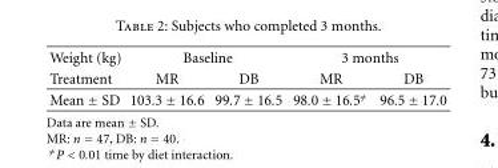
<table><thead><tr><td rowspan="2">Weight (kg) Treatment</td><td colspan="2">Baseline</td><td colspan="2">3 months</td></tr><tr><td>MR</td><td>DB</td><td>MR</td><td>DB</td></tr></thead><tbody><tr><td>Mean ± SD</td><td>103.3 ± 16.6</td><td>99.7 ± 16.5</td><td>98.0 ± 16.5/=</td><td>96.5 ± 17.0</td></tr></tbody></table>